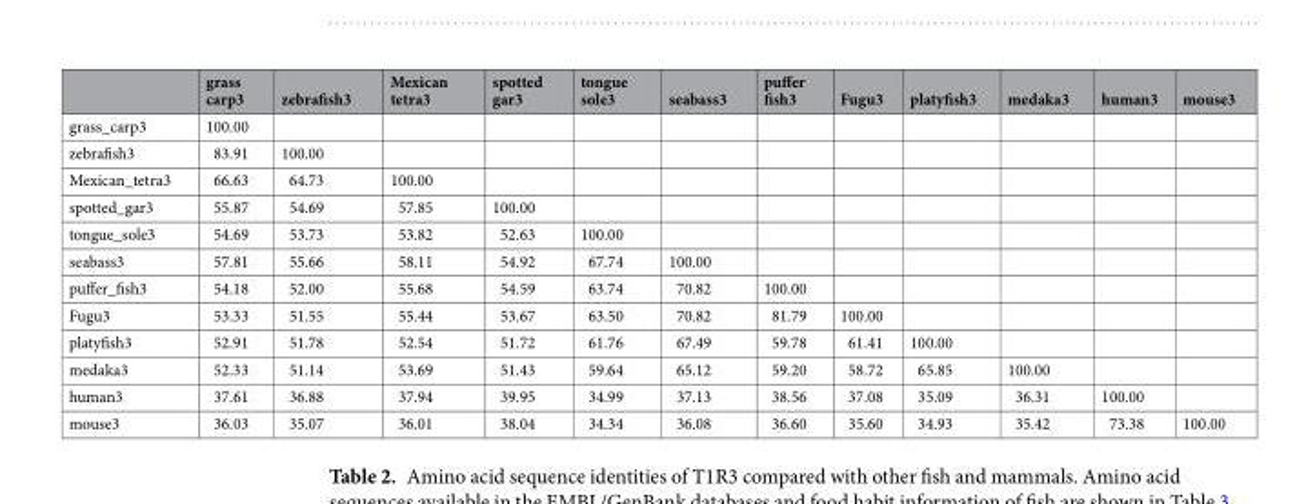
<table><thead><tr><td></td><td>grass carp3</td><td>zebrafish3</td><td>Mexican tetra3</td><td>spotted gar3</td><td>tongue sole3</td><td>seabass3</td><td>puffer fish3</td><td>Fugu3</td><td>platyfish3</td><td>medaka3</td><td>human3</td><td>mouse3</td></tr></thead><tbody><tr><td>grass_carp3</td><td>100.00</td><td></td><td></td><td></td><td></td><td></td><td></td><td></td><td></td><td></td><td></td><td></td></tr><tr><td>zebrafish3</td><td>83.91</td><td>100.00</td><td></td><td></td><td></td><td></td><td></td><td></td><td></td><td></td><td></td><td></td></tr><tr><td>Mexican_tetra3</td><td>66.63</td><td>64.73</td><td>100.00</td><td></td><td></td><td></td><td></td><td></td><td></td><td></td><td></td><td></td></tr><tr><td>spotted_gar3</td><td>55.87</td><td>54.69</td><td>57.85</td><td>100.00</td><td></td><td></td><td></td><td></td><td></td><td></td><td></td><td></td></tr><tr><td>tongue_sole3</td><td>54.69</td><td>53.73</td><td>53.82</td><td>52.63</td><td>100.00</td><td></td><td></td><td></td><td></td><td></td><td></td><td></td></tr><tr><td>seabass3</td><td>57.81</td><td>55.66</td><td>58.11</td><td>54.92</td><td>67.74</td><td>100.00</td><td></td><td></td><td></td><td></td><td></td><td></td></tr><tr><td>puffer_fish3</td><td>54.18</td><td>52.00</td><td>55.68</td><td>54.59</td><td>63.74</td><td>70.82</td><td>100.00</td><td></td><td></td><td></td><td></td><td></td></tr><tr><td>Fugu3</td><td>53.33</td><td>51.55</td><td>55.44</td><td>53.67</td><td>63.50</td><td>70.82</td><td>81.79</td><td>100.00</td><td></td><td></td><td></td><td></td></tr><tr><td>platyfish3</td><td>52.91</td><td>51.78</td><td>52.54</td><td>51.72</td><td>61.76</td><td>67.49</td><td>59.78</td><td>61.41</td><td>100.00</td><td></td><td></td><td></td></tr><tr><td>medaka3</td><td>52.33</td><td>51.14</td><td>53.69</td><td>51.43</td><td>59.64</td><td>65.12</td><td>59.20</td><td>58.72</td><td>65.85</td><td>100.00</td><td></td><td></td></tr><tr><td>human3</td><td>37.61</td><td>36.88</td><td>37.94</td><td>39.95</td><td>34.99</td><td>37.13</td><td>38.56</td><td>37.08</td><td>35.09</td><td>36.31</td><td>100.00</td><td></td></tr><tr><td>mouse3</td><td>36.03</td><td>35.07</td><td>36.01</td><td>38.04</td><td>34.34</td><td>36.08</td><td>36.60</td><td>35.60</td><td>34.93</td><td>35.42</td><td>73.38</td><td>100.00</td></tr></tbody></table>